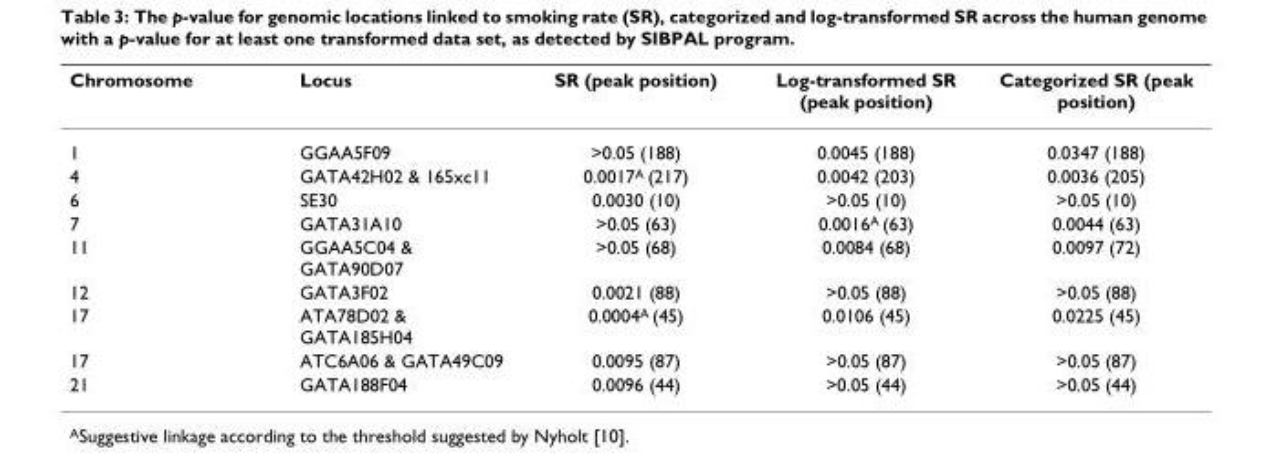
<table><thead><tr><td>Chromosome</td><td>Locus</td><td>SR (peak position)</td><td>Log-transformed SR (peak position)</td><td>Categorized SR (peak position)</td></tr></thead><tbody><tr><td>1</td><td>GGAA5F09</td><td>&gt;0.05 (188)</td><td>0.0045 (188)</td><td>0.0347 (188)</td></tr><tr><td>4</td><td>GATA42H02 &amp; 165xc11</td><td>0.0017A (217)</td><td>0.0042 (203)</td><td>0.0036 (205)</td></tr><tr><td>6</td><td>SE30</td><td>0.0030 (10)</td><td>&gt;0.05 (10)</td><td>&gt;0.05 (10)</td></tr><tr><td>7</td><td>GATA31A10</td><td>&gt;0.05 (63)</td><td>0.0016A (63)</td><td>0.0044 (63)</td></tr><tr><td>11</td><td>GGAA5C04 &amp; GATA90D07</td><td>&gt;0.05 (68)</td><td>0.0084 (68)</td><td>0.0097 (72)</td></tr><tr><td>12</td><td>GATA3F02</td><td>0.0021 (88)</td><td>&gt;0.05 (88)</td><td>&gt;0.05 (88)</td></tr><tr><td>17</td><td>ATA78D02 &amp; GATA185H04</td><td>0.0004A (45)</td><td>0.0106 (45)</td><td>0.0225 (45)</td></tr><tr><td>17</td><td>ATC6A06 &amp; GATA49C09</td><td>0.0095 (87)</td><td>&gt;0.05 (87)</td><td>&gt;0.05 (87)</td></tr><tr><td>21</td><td>GATA188F04</td><td>0.0096 (44)</td><td>&gt;0.05 (44)</td><td>&gt;0.05 (44)</td></tr></tbody></table>